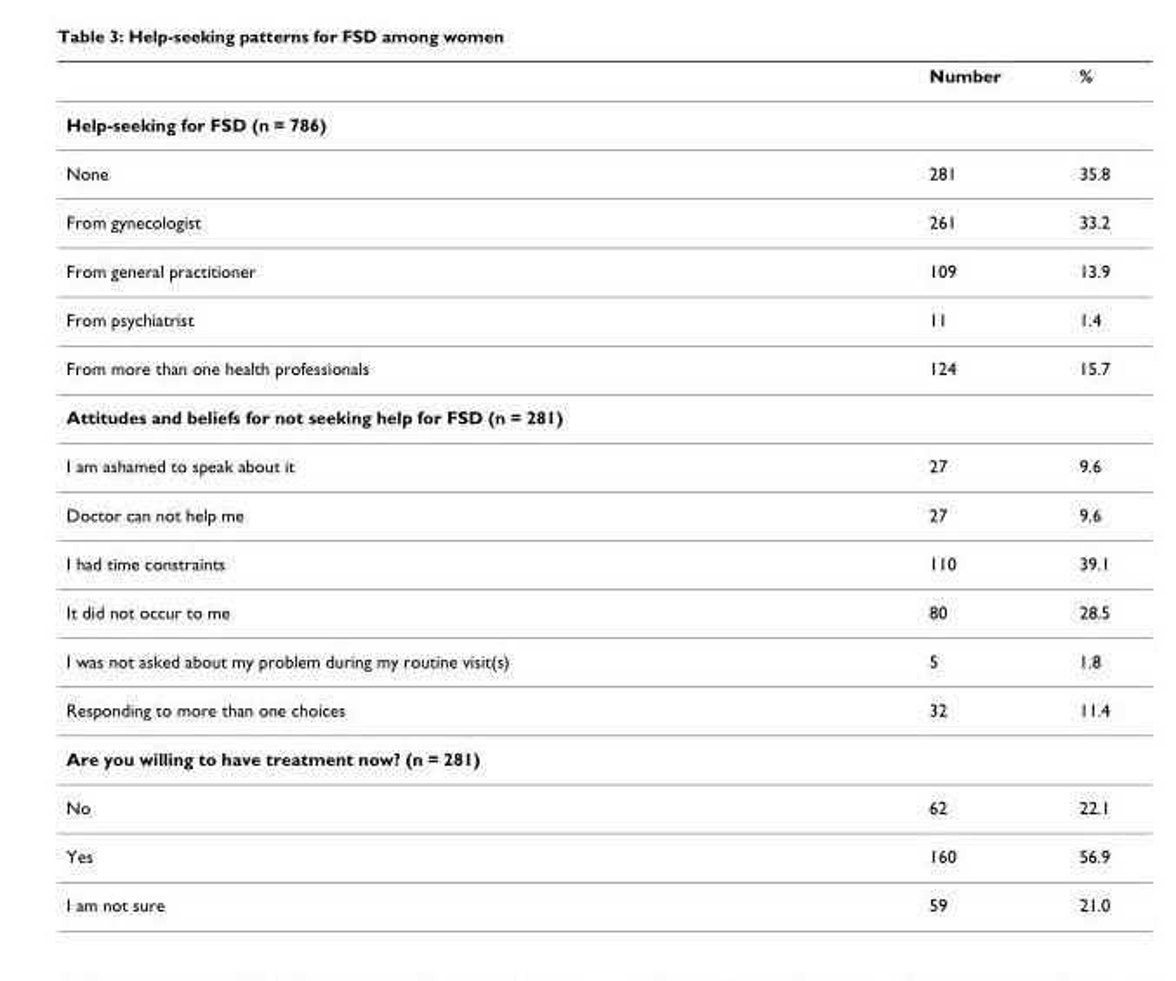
<table><thead><tr><td></td><td>Number</td><td>%</td></tr></thead><tbody><tr><td colspan="3">Help-seeking for FSD (n = 786)</td></tr><tr><td>None</td><td>281</td><td>35.8</td></tr><tr><td>From gynecologist</td><td>261</td><td>33.2</td></tr><tr><td>From general practitioner</td><td>109</td><td>13.9</td></tr><tr><td>From psychiatrist</td><td>11</td><td>1.4</td></tr><tr><td>From more than one health professionals</td><td>124</td><td>15.7</td></tr><tr><td colspan="3">Attitudes and beliefs for not seeking help for FSD (n = 281)</td></tr><tr><td>I am ashamed to speak about it</td><td>27</td><td>9.6</td></tr><tr><td>Doctor can not help me</td><td>27</td><td>9.6</td></tr><tr><td>I had time constraints</td><td>110</td><td>39.1</td></tr><tr><td>It did not occur to me</td><td>80</td><td>28.5</td></tr><tr><td>I was not asked about my problem during my routine visit(s)</td><td>5</td><td>1.8</td></tr><tr><td>Responding to more than one choices</td><td>32</td><td>11.4</td></tr><tr><td colspan="3">Are you willing to have treatment now? (n = 281)</td></tr><tr><td>No</td><td>62</td><td>22.1</td></tr><tr><td>Yes</td><td>160</td><td>56.9</td></tr><tr><td>I am not sure</td><td>59</td><td>21.0</td></tr></tbody></table>